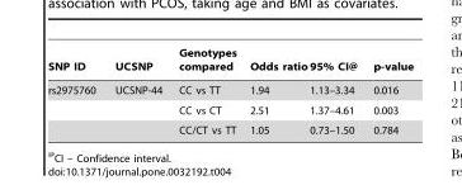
<table><thead><tr><td>SNP ID</td><td>UCSNP</td><td>Genotypes compared</td><td>Odds ratio</td><td>95% CI@</td><td>p-value</td></tr></thead><tbody><tr><td rowspan="3">rs2975760</td><td>UCSNP-44</td><td>CC vs TT</td><td>1.94</td><td>1.13–3.34</td><td>0.016</td></tr><tr><td></td><td>CC vs CT</td><td>2.51</td><td>1.37–4.61</td><td>0.003</td></tr><tr><td></td><td>CC/CT vs TT</td><td>1.05</td><td>0.73–1.50</td><td>0.784</td></tr></tbody></table>